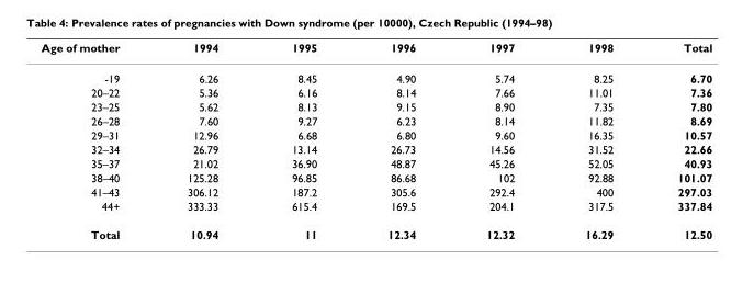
<table><thead><tr><td>Age of mother</td><td>1994</td><td>1995</td><td>1996</td><td>1997</td><td>1998</td><td>Total</td></tr></thead><tbody><tr><td>-19</td><td>6.26</td><td>8.45</td><td>4.90</td><td>5.74</td><td>8.25</td><td>6.70</td></tr><tr><td>20–22</td><td>5.36</td><td>6.16</td><td>8.14</td><td>7.66</td><td>11.01</td><td>7.36</td></tr><tr><td>23–25</td><td>5.62</td><td>8.13</td><td>9.15</td><td>8.90</td><td>7.35</td><td>7.80</td></tr><tr><td>26–28</td><td>7.60</td><td>9.27</td><td>6.23</td><td>8.14</td><td>11.82</td><td>8.69</td></tr><tr><td>29–31</td><td>12.96</td><td>6.68</td><td>6.80</td><td>9.60</td><td>16.35</td><td>10.57</td></tr><tr><td>32–34</td><td>26.79</td><td>13.14</td><td>26.73</td><td>14.56</td><td>31.52</td><td>22.66</td></tr><tr><td>35–37</td><td>21.02</td><td>36.90</td><td>48.87</td><td>45.26</td><td>52.05</td><td>40.93</td></tr><tr><td>38–40</td><td>125.28</td><td>96.85</td><td>86.68</td><td>102</td><td>92.88</td><td>101.07</td></tr><tr><td>41–43</td><td>306.12</td><td>187.2</td><td>305.6</td><td>292.4</td><td>400</td><td>297.03</td></tr><tr><td>44+</td><td>333.33</td><td>615.4</td><td>169.5</td><td>204.1</td><td>317.5</td><td>337.84</td></tr><tr><td>Total</td><td>10.94</td><td>11</td><td>12.34</td><td>12.32</td><td>16.29</td><td>12.50</td></tr></tbody></table>